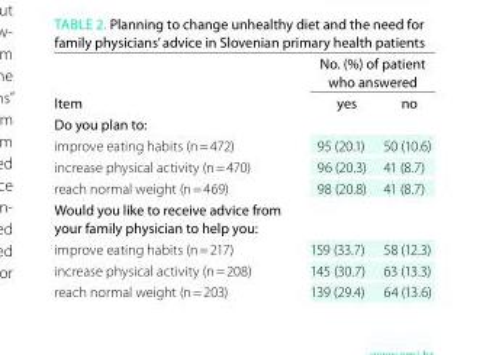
<table><thead><tr><td rowspan="2">Item</td><td colspan="2">No. (%) of patient who answered</td></tr><tr><td>yes</td><td>no</td></tr></thead><tbody><tr><td colspan="3">do you plan to:</td></tr><tr><td>improve eating habits (n = 472)</td><td>95 (20.1)</td><td>50 (10.6)</td></tr><tr><td>increase physical activity (n = 470)</td><td>96 (20.3)</td><td>41 (8.7)</td></tr><tr><td>reach normal weight (n = 469)</td><td>98 (20.8)</td><td>41 (8.7)</td></tr><tr><td colspan="3">Would you like to receive advice from your family physician to help you:</td></tr><tr><td>improve eating habits (n = 217)</td><td>159 (33.7)</td><td>58 (12.3)</td></tr><tr><td>increase physical activity (n = 208)</td><td>145 (30.7)</td><td>63 (13.3)</td></tr><tr><td>reach normal weight (n = 203)</td><td>139 (29.4)</td><td>64 (13.6)</td></tr></tbody></table>